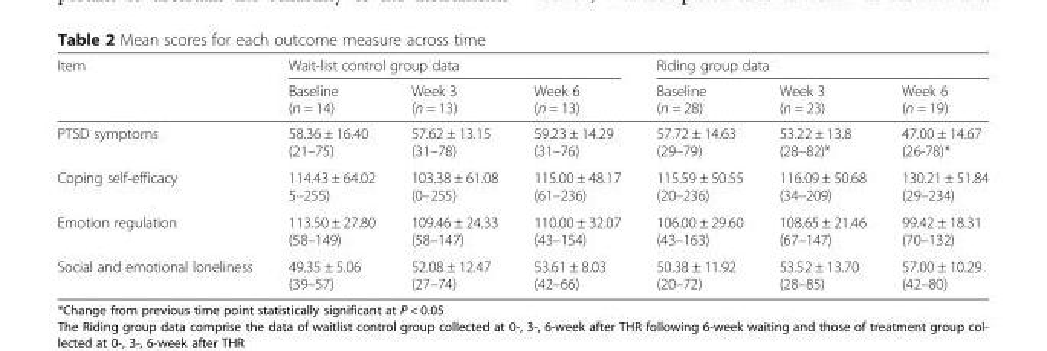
<table><thead><tr><td rowspan="2">Item</td><td colspan="3">Wait-list control group data</td><td colspan="3">Riding group data</td></tr><tr><td>Baseline (n = 14)</td><td>Week 3 (n = 13)</td><td>Week 6 (n = 13)</td><td>Baseline (n = 28)</td><td>Week 3 (n = 23)</td><td>Week 6 (n = 19)</td></tr></thead><tbody><tr><td>PTSD symptoms</td><td>58.36 ± 16.40 (21–75)</td><td>57.62 ± 13.15 (31–78)</td><td>59.23 ± 14.29 (31–76)</td><td>57.72 ± 14.63 (29–79)</td><td>53.22 ± 13.8 (28–82)*</td><td>47.00 ± 14.67 (26-78)*</td></tr><tr><td>Coping self-efficacy</td><td>114.43 ± 64.02 5–255)</td><td>103.38 ± 61.08 (0–255)</td><td>115.00 ± 48.17 (61–236)</td><td>115.59 ± 50.55 (20–236)</td><td>116.09 ± 50.68 (34–209)</td><td>130.21 ± 51.84 (29–234)</td></tr><tr><td>Emotion regulation</td><td>113.50 ± 27.80 (58–149)</td><td>109.46 ± 24.33 (58–147)</td><td>110.00 ± 32.07 (43–154)</td><td>106.00 ± 29.60 (43–163)</td><td>108.65 ± 21.46 (67–147)</td><td>99.42 ± 18.31 (70–132)</td></tr><tr><td>Social and emotional loneliness</td><td>49.35 ± 5.06 (39–57)</td><td>52.08 ± 12.47 (27–74)</td><td>53.61 ± 8.03 (42–66)</td><td>50.38 ± 11.92 (20–72)</td><td>53.52 ± 13.70 (28–85)</td><td>57.00 ± 10.29 (42–80)</td></tr></tbody></table>